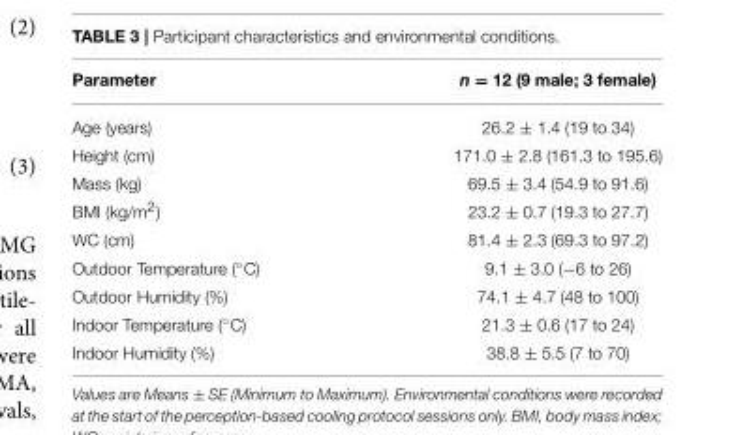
<table><thead><tr><td>Parameter</td><td>n = 12 (9 male; 3 female)</td></tr></thead><tbody><tr><td>Age (years)</td><td>26.2 ± 1.4 (19 to 34)</td></tr><tr><td>Height (cm)</td><td>171.0 ± 2.8 (161.3 to 195.6)</td></tr><tr><td>Mass (kg)</td><td>69.5 ± 3.4 (54.9 to 91.6)</td></tr><tr><td>BMI (kg/m<sup>2</sup>)</td><td>23.2 ± 0.7 (19.3 to 27.7)</td></tr><tr><td>WC (cm)</td><td>81.4 ± 2.3 (69.3 to 97.2)</td></tr><tr><td>Outdoor Temperature (◦C)</td><td>9.1 ± 3.0 (−6 to 26)</td></tr><tr><td>Outdoor Humidity (%)</td><td>74.1 ± 4.7 (48 to 100)</td></tr><tr><td>Indoor Temperature (◦C)</td><td>21.3 ± 0.6 (17 to 24)</td></tr><tr><td>Indoor Humidity (%)</td><td>38.8 ± 5.5 (7 to 70)</td></tr></tbody></table>